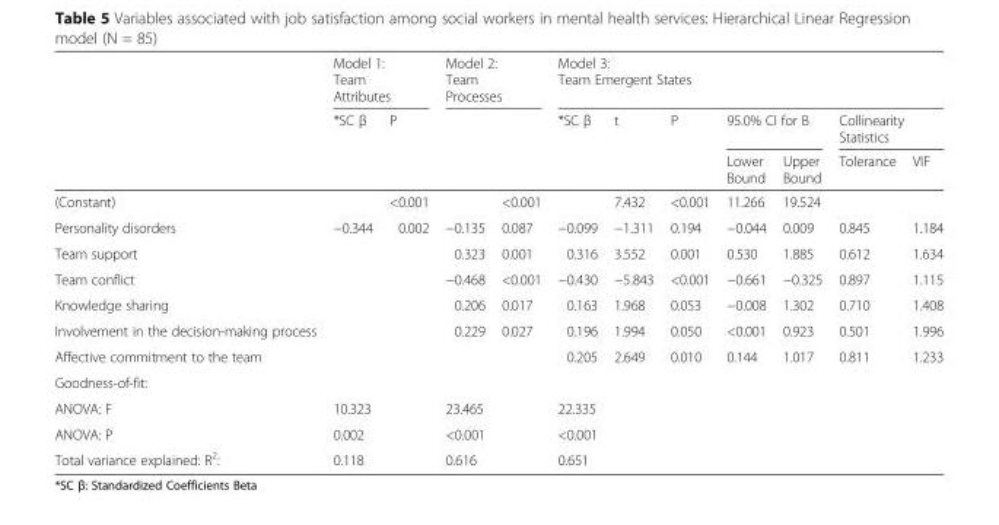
<table><thead><tr><td rowspan="3"></td><td colspan="2">Model 1: Team Attributes</td><td colspan="2">Model 2: Team Processes</td><td colspan="7">Model 3: Team Emergent States</td></tr><tr><td rowspan="2">*SC β</td><td rowspan="2">P</td><td rowspan="2"></td><td rowspan="2"></td><td rowspan="2">*SC β</td><td rowspan="2">t</td><td rowspan="2">P</td><td colspan="2">95.0% CI for B</td><td colspan="2">Collinearity Statistics</td></tr><tr><td>Lower Bound</td><td>Upper Bound</td><td>Tolerance</td><td>VIF</td></tr></thead><tbody><tr><td>(Constant)</td><td></td><td>&lt;0.001</td><td></td><td>&lt;0.001</td><td></td><td>7.432</td><td>&lt;0.001</td><td>11.266</td><td>19.524</td><td></td><td></td></tr><tr><td>Personality disorders</td><td>−0.344</td><td>0.002</td><td>−0.135</td><td>0.087</td><td>−0.099</td><td>−1.311</td><td>0.194</td><td>−0.044</td><td>0.009</td><td>0.845</td><td>1.184</td></tr><tr><td>Team support</td><td></td><td></td><td>0.323</td><td>0.001</td><td>0.316</td><td>3.552</td><td>0.001</td><td>0.530</td><td>1.885</td><td>0.612</td><td>1.634</td></tr><tr><td>Team conflict</td><td></td><td></td><td>−0.468</td><td>&lt;0.001</td><td>−0.430</td><td>−5.843</td><td>&lt;0.001</td><td>−0.661</td><td>−0.325</td><td>0.897</td><td>1.115</td></tr><tr><td>Knowledge sharing</td><td></td><td></td><td>0.206</td><td>0.017</td><td>0.163</td><td>1.968</td><td>0.053</td><td>−0.008</td><td>1.302</td><td>0.710</td><td>1.408</td></tr><tr><td>Involvement in the decision-making process</td><td></td><td></td><td>0.229</td><td>0.027</td><td>0.196</td><td>1.994</td><td>0.050</td><td>&lt;0.001</td><td>0.923</td><td>0.501</td><td>1.996</td></tr><tr><td>Affective commitment to the team</td><td></td><td></td><td></td><td></td><td>0.205</td><td>2.649</td><td>0.010</td><td>0.144</td><td>1.017</td><td>0.811</td><td>1.233</td></tr><tr><td colspan="12">Goodness-of-fit:</td></tr><tr><td>ANOVA: F</td><td colspan="2">10.323</td><td colspan="2">23.465</td><td colspan="7">22.335</td></tr><tr><td>ANOVA: P</td><td colspan="2">0.002</td><td colspan="2">&lt;0.001</td><td colspan="7">&lt;0.001</td></tr><tr><td>Total variance explained: R<sup>2</sup>:</td><td colspan="2">0.118</td><td colspan="2">0.616</td><td colspan="7">0.651</td></tr></tbody></table>